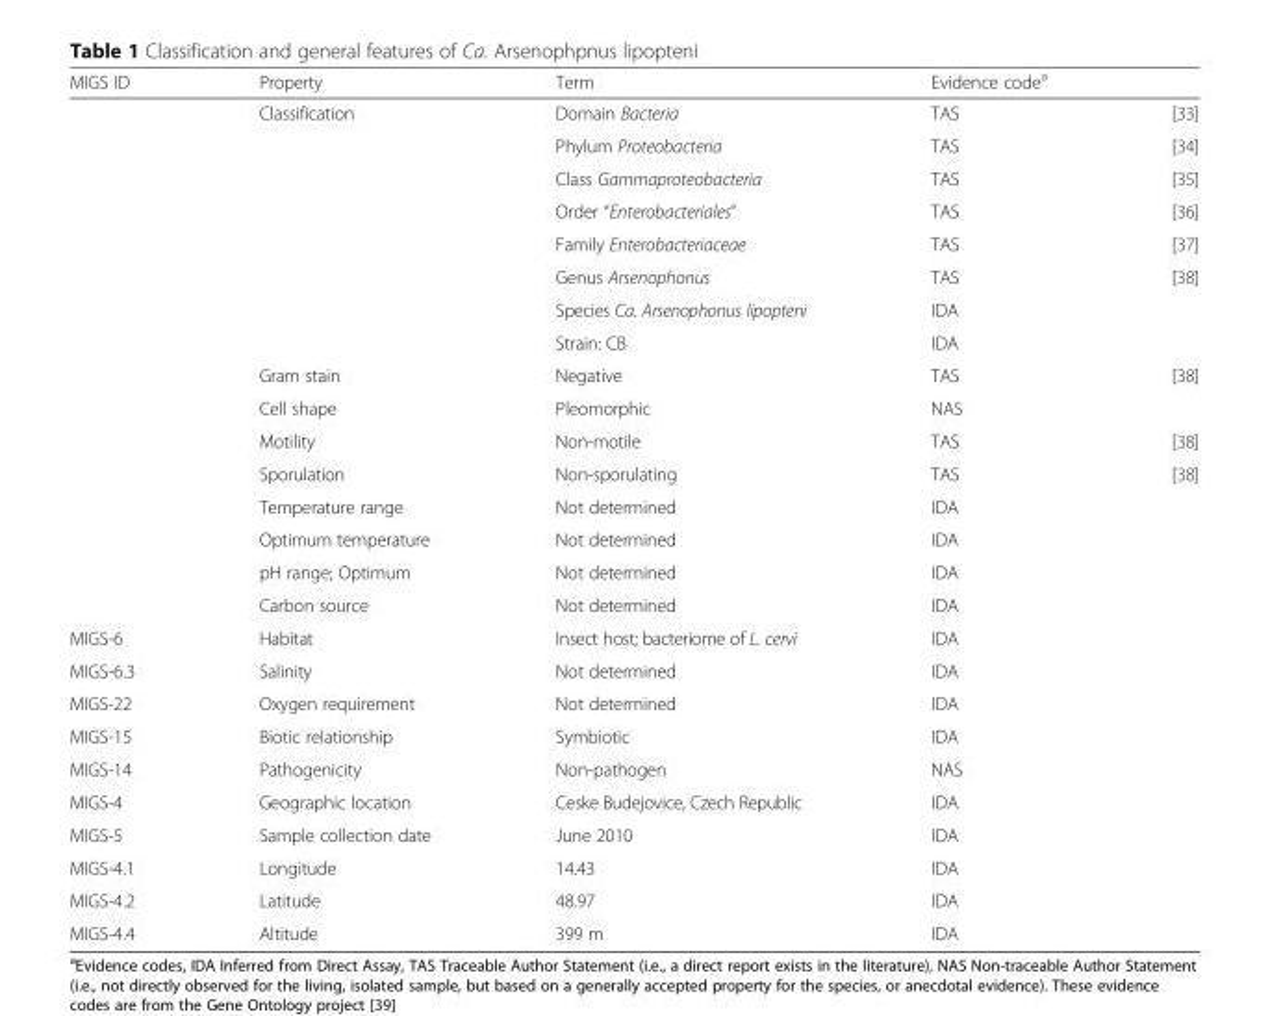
<table><thead><tr><td>MIGS ID</td><td>Property</td><td>Term</td><td>Evidence code<sup>a</sup></td><td></td></tr></thead><tbody><tr><td></td><td>Classification</td><td>Domain Bacteria</td><td>TAS</td><td>[33]</td></tr><tr><td></td><td></td><td>Phylum Proteobacteria</td><td>TAS</td><td>[34]</td></tr><tr><td></td><td></td><td>Class Gammaproteobacteria</td><td>TAS</td><td>[35]</td></tr><tr><td></td><td></td><td>Order “Enterobacteriales”</td><td>TAS</td><td>[36]</td></tr><tr><td></td><td></td><td>Family Enterobacteriaceae</td><td>TAS</td><td>[37]</td></tr><tr><td></td><td></td><td>Genus Arsenophonus</td><td>TAS</td><td>[38]</td></tr><tr><td></td><td></td><td>Species Ca. Arsenophonus lipopteni</td><td>IDA</td><td></td></tr><tr><td></td><td></td><td>Strain: CB</td><td>IDA</td><td></td></tr><tr><td></td><td>Gram stain</td><td>Negative</td><td>TAS</td><td>[38]</td></tr><tr><td></td><td>Cell shape</td><td>Pleomorphic</td><td>NAS</td><td></td></tr><tr><td></td><td>Motility</td><td>Non-motile</td><td>TAS</td><td>[38]</td></tr><tr><td></td><td>Sporulation</td><td>Non-sporulating</td><td>TAS</td><td>[38]</td></tr><tr><td></td><td>Temperature range</td><td>Not determined</td><td>IDA</td><td></td></tr><tr><td></td><td>Optimum temperature</td><td>Not determined</td><td>IDA</td><td></td></tr><tr><td></td><td>pH range; Optimum</td><td>Not determined</td><td>IDA</td><td></td></tr><tr><td></td><td>Carbon source</td><td>Not determined</td><td>IDA</td><td></td></tr><tr><td>MIGS-6</td><td>Habitat</td><td>Insect host; bacteriome of L. cervi</td><td>IDA</td><td></td></tr><tr><td>MIGS-6.3</td><td>Salinity</td><td>Not determined</td><td>IDA</td><td></td></tr><tr><td>MIGS-22</td><td>Oxygen requirement</td><td>Not determined</td><td>IDA</td><td></td></tr><tr><td>MIGS-15</td><td>Biotic relationship</td><td>Symbiotic</td><td>IDA</td><td></td></tr><tr><td>MIGS-14</td><td>Pathogenicity</td><td>Non-pathogen</td><td>NAS</td><td></td></tr><tr><td>MIGS-4</td><td>Geographic location</td><td>Ceske Budejovice, Czech Republic</td><td>IDA</td><td></td></tr><tr><td>MIGS-5</td><td>Sample collection date</td><td>June 2010</td><td>IDA</td><td></td></tr><tr><td>MIGS-4.1</td><td>Longitude</td><td>14.43</td><td>IDA</td><td></td></tr><tr><td>MIGS-4.2</td><td>Latitude</td><td>48.97</td><td>IDA</td><td></td></tr><tr><td>MIGS-4.4</td><td>Altitude</td><td>399 m</td><td>IDA</td><td></td></tr></tbody></table>